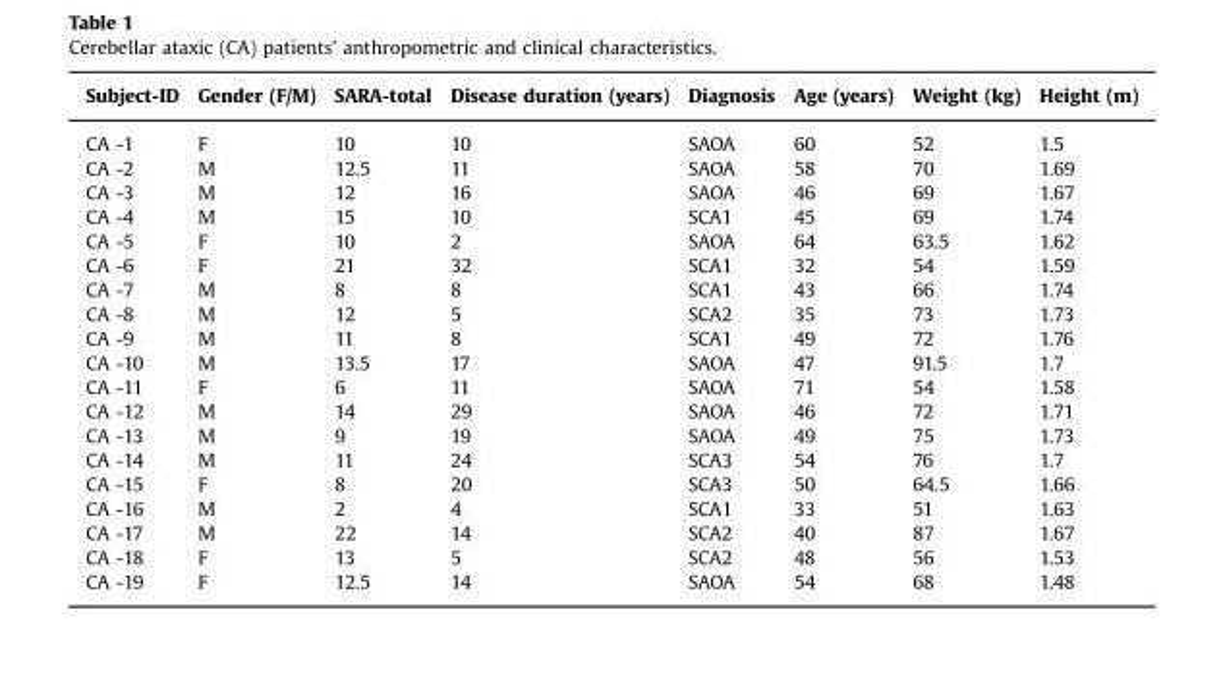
<table><thead><tr><td>Subject-ID</td><td>Gender (F/M)</td><td>SARA-total</td><td>Disease duration (years)</td><td>Diagnosis</td><td>Age (years)</td><td>Weight (kg)</td><td>Height (m)</td></tr></thead><tbody><tr><td>CA -1</td><td>F</td><td>10</td><td>10</td><td>SAOA</td><td>60</td><td>52</td><td>1.5</td></tr><tr><td>CA -2</td><td>M</td><td>12.5</td><td>11</td><td>SAOA</td><td>58</td><td>70</td><td>1.69</td></tr><tr><td>CA -3</td><td>M</td><td>12</td><td>16</td><td>SAOA</td><td>46</td><td>69</td><td>1.67</td></tr><tr><td>CA -4</td><td>M</td><td>15</td><td>10</td><td>SCA1</td><td>45</td><td>69</td><td>1.74</td></tr><tr><td>CA -5</td><td>F</td><td>10</td><td>2</td><td>SAOA</td><td>64</td><td>63.5</td><td>1.62</td></tr><tr><td>CA -6</td><td>F</td><td>21</td><td>32</td><td>SCA1</td><td>32</td><td>54</td><td>1.59</td></tr><tr><td>CA -7</td><td>M</td><td>8</td><td>8</td><td>SCA1</td><td>43</td><td>66</td><td>1.74</td></tr><tr><td>CA -8</td><td>M</td><td>12</td><td>5</td><td>SCA2</td><td>35</td><td>73</td><td>1.73</td></tr><tr><td>CA -9</td><td>M</td><td>11</td><td>8</td><td>SCA1</td><td>49</td><td>72</td><td>1.76</td></tr><tr><td>CA -10</td><td>M</td><td>13.5</td><td>17</td><td>SAOA</td><td>47</td><td>91.5</td><td>1.7</td></tr><tr><td>CA -11</td><td>F</td><td>6</td><td>11</td><td>SAOA</td><td>71</td><td>54</td><td>1.58</td></tr><tr><td>CA -12</td><td>M</td><td>14</td><td>29</td><td>SAOA</td><td>46</td><td>72</td><td>1.71</td></tr><tr><td>CA -13</td><td>M</td><td>9</td><td>19</td><td>SAOA</td><td>49</td><td>75</td><td>1.73</td></tr><tr><td>CA -14</td><td>M</td><td>11</td><td>24</td><td>SCA3</td><td>54</td><td>76</td><td>1.7</td></tr><tr><td>CA -15</td><td>F</td><td>8</td><td>20</td><td>SCA3</td><td>50</td><td>64.5</td><td>1.66</td></tr><tr><td>CA -16</td><td>M</td><td>2</td><td>4</td><td>SCA1</td><td>33</td><td>51</td><td>1.63</td></tr><tr><td>CA -17</td><td>M</td><td>22</td><td>14</td><td>SCA2</td><td>40</td><td>87</td><td>1.67</td></tr><tr><td>CA -18</td><td>F</td><td>13</td><td>5</td><td>SCA2</td><td>48</td><td>56</td><td>1.53</td></tr><tr><td>CA -19</td><td>F</td><td>12.5</td><td>14</td><td>SAOA</td><td>54</td><td>68</td><td>1.48</td></tr></tbody></table>